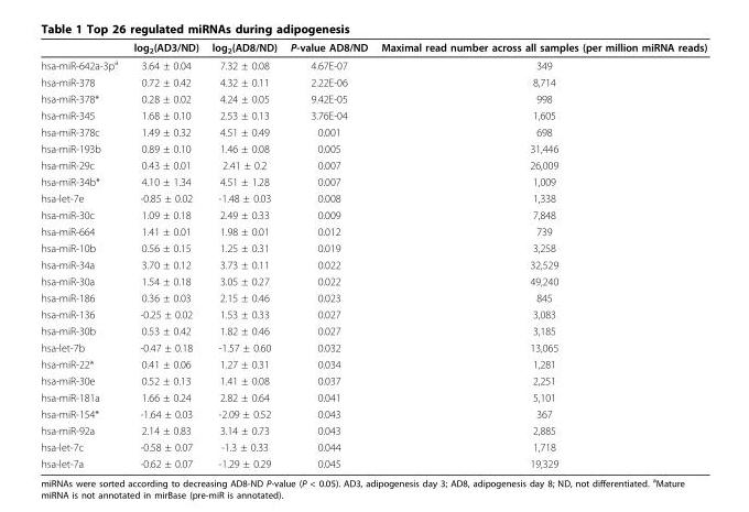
<table><thead><tr><td></td><td>log<sub>2</sub>(AD3/ND)</td><td>log<sub>2</sub>(AD8/ND)</td><td>P-value AD8/ND</td><td>Maximal read number across all samples (per million miRNA reads)</td></tr></thead><tbody><tr><td>hsa-miR-642a-3p<sup>a</sup></td><td>3.64 ± 0.04</td><td>7.32 ± 0.08</td><td>4.67E-07</td><td>349</td></tr><tr><td>hsa-miR-378</td><td>0.72 ± 0.42</td><td>4.32 ± 0.11</td><td>2.22E-06</td><td>8,714</td></tr><tr><td>hsa-miR-378*</td><td>0.28 ± 0.02</td><td>4.24 ± 0.05</td><td>9.42E-05</td><td>998</td></tr><tr><td>hsa-miR-345</td><td>1.68 ± 0.10</td><td>2.53 ± 0.13</td><td>3.76E-04</td><td>1,605</td></tr><tr><td>hsa-miR-378c</td><td>1.49 ± 0.32</td><td>4.51 ± 0.49</td><td>0.001</td><td>698</td></tr><tr><td>hsa-miR-193b</td><td>0.89 ± 0.10</td><td>1.46 ± 0.08</td><td>0.005</td><td>31,446</td></tr><tr><td>hsa-miR-29c</td><td>0.43 ± 0.01</td><td>2.41 ± 0.2</td><td>0.007</td><td>26,009</td></tr><tr><td>hsa-miR-34b*</td><td>4.10 ± 1.34</td><td>4.51 ± 1.28</td><td>0.007</td><td>1,009</td></tr><tr><td>hsa-let-7e</td><td>-0.85 ± 0.02</td><td>-1.48 ± 0.03</td><td>0.008</td><td>1,338</td></tr><tr><td>hsa-miR-30c</td><td>1.09 ± 0.18</td><td>2.49 ± 0.33</td><td>0.009</td><td>7,848</td></tr><tr><td>hsa-miR-664</td><td>1.41 ± 0.01</td><td>1.98 ± 0.01</td><td>0.012</td><td>739</td></tr><tr><td>hsa-miR-10b</td><td>0.56 ± 0.15</td><td>1.25 ± 0.31</td><td>0.019</td><td>3,258</td></tr><tr><td>hsa-miR-34a</td><td>3.70 ± 0.12</td><td>3.73 ± 0.11</td><td>0.022</td><td>32,529</td></tr><tr><td>hsa-miR-30a</td><td>1.54 ± 0.18</td><td>3.05 ± 0.27</td><td>0.022</td><td>49,240</td></tr><tr><td>hsa-miR-186</td><td>0.36 ± 0.03</td><td>2.15 ± 0.46</td><td>0.023</td><td>845</td></tr><tr><td>hsa-miR-136</td><td>-0.25 ± 0.02</td><td>1.53 ± 0.33</td><td>0.027</td><td>3,083</td></tr><tr><td>hsa-miR-30b</td><td>0.53 ± 0.42</td><td>1.82 ± 0.46</td><td>0.027</td><td>3,185</td></tr><tr><td>hsa-let-7b</td><td>-0.47 ± 0.18</td><td>-1.57 ± 0.60</td><td>0.032</td><td>13,065</td></tr><tr><td>hsa-miR-22*</td><td>0.41 ± 0.06</td><td>1.27 ± 0.31</td><td>0.034</td><td>1,281</td></tr><tr><td>hsa-miR-30e</td><td>0.52 ± 0.13</td><td>1.41 ± 0.08</td><td>0.037</td><td>2,251</td></tr><tr><td>hsa-miR-181a</td><td>1.66 ± 0.24</td><td>2.82 ± 0.64</td><td>0.041</td><td>5,101</td></tr><tr><td>hsa-miR-154*</td><td>-1.64 ± 0.03</td><td>-2.09 ± 0.52</td><td>0.043</td><td>367</td></tr><tr><td>hsa-miR-92a</td><td>2.14 ± 0.83</td><td>3.14 ± 0.73</td><td>0.043</td><td>2,885</td></tr><tr><td>hsa-let-7c</td><td>-0.58 ± 0.07</td><td>-1.3 ± 0.33</td><td>0.044</td><td>1,718</td></tr><tr><td>hsa-let-7a</td><td>-0.62 ± 0.07</td><td>-1.29 ± 0.29</td><td>0.045</td><td>19,329</td></tr></tbody></table>